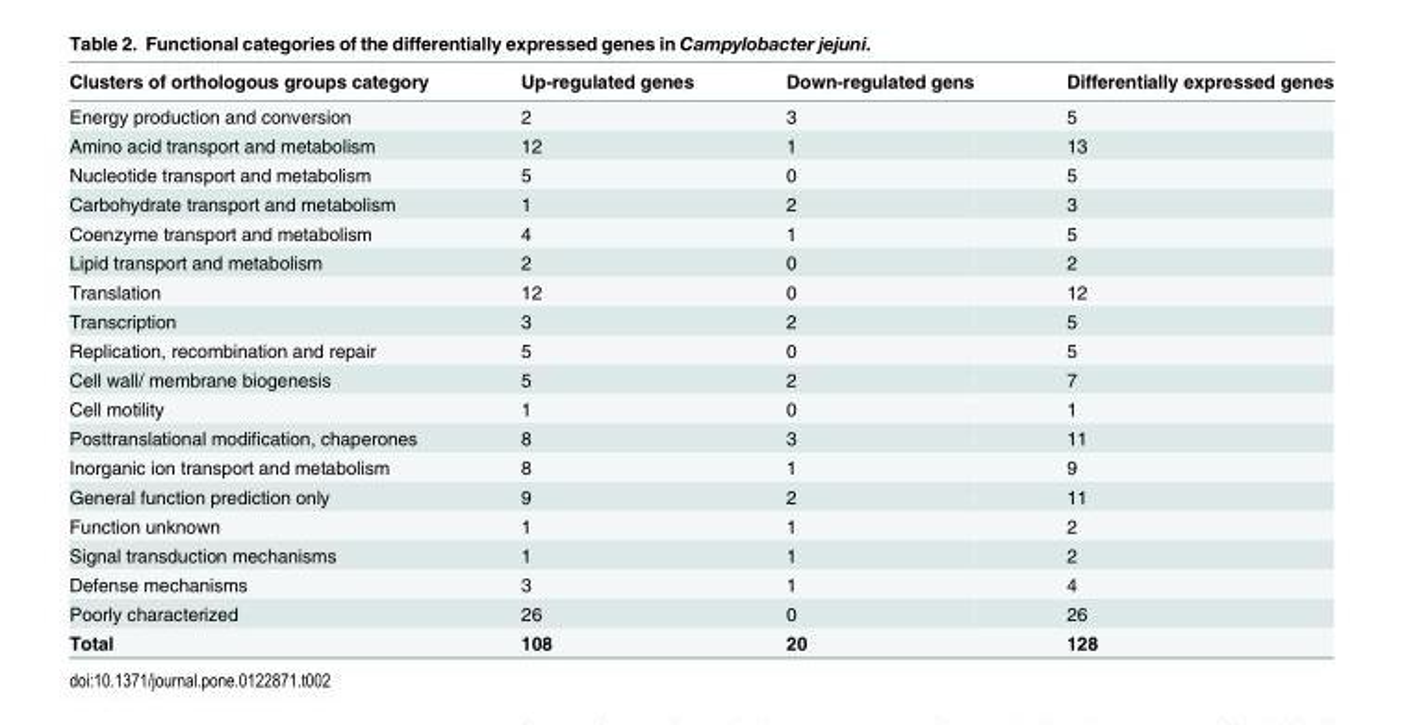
<table><thead><tr><td>Clusters of orthologous groups category</td><td>Up-regulated genes</td><td>Down-regulated gens</td><td>Differentially expressed genes</td></tr></thead><tbody><tr><td>Energy production and conversion</td><td>2</td><td>3</td><td>5</td></tr><tr><td>Amino acid transport and metabolism</td><td>12</td><td>1</td><td>13</td></tr><tr><td>Nucleotide transport and metabolism</td><td>5</td><td>0</td><td>5</td></tr><tr><td>Carbohydrate transport and metabolism</td><td>1</td><td>2</td><td>3</td></tr><tr><td>Coenzyme transport and metabolism</td><td>4</td><td>1</td><td>5</td></tr><tr><td>Lipid transport and metabolism</td><td>2</td><td>0</td><td>2</td></tr><tr><td>Translation</td><td>12</td><td>0</td><td>12</td></tr><tr><td>Transcription</td><td>3</td><td>2</td><td>5</td></tr><tr><td>Replication, recombination and repair</td><td>5</td><td>0</td><td>5</td></tr><tr><td>Cell wall/ membrane biogenesis</td><td>5</td><td>2</td><td>7</td></tr><tr><td>Cell motility</td><td>1</td><td>0</td><td>1</td></tr><tr><td>Posttranslational modification, chaperones</td><td>8</td><td>3</td><td>11</td></tr><tr><td>Inorganic ion transport and metabolism</td><td>8</td><td>1</td><td>9</td></tr><tr><td>General function prediction only</td><td>9</td><td>2</td><td>11</td></tr><tr><td>Function unknown</td><td>1</td><td>1</td><td>2</td></tr><tr><td>Signal transduction mechanisms</td><td>1</td><td>1</td><td>2</td></tr><tr><td>Defense mechanisms</td><td>3</td><td>1</td><td>4</td></tr><tr><td>Poorly characterized</td><td>26</td><td>0</td><td>26</td></tr><tr><td>Total</td><td>108</td><td>20</td><td>128</td></tr></tbody></table>